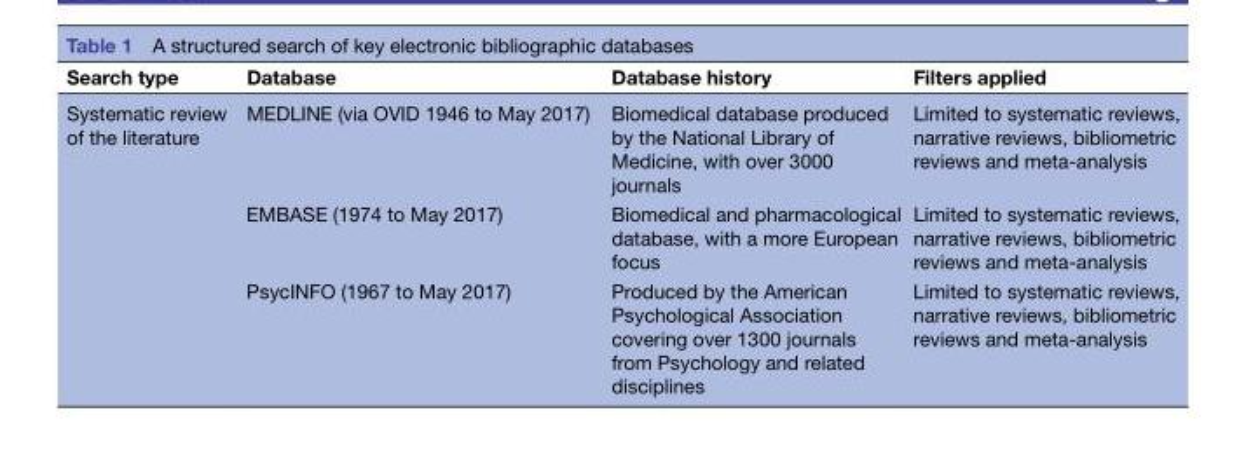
<table><thead><tr><td>Search type</td><td>Database</td><td>Database history</td><td>Filters applied</td></tr></thead><tbody><tr><td rowspan="3">Systematic review of the literature</td><td>MEDLINE (via OVID 1946 to May 2017)</td><td>Biomedical database produced by the National Library of Medicine, with over 3000 journals</td><td>Limited to systematic reviews, narrative reviews, bibliometric reviews and meta-analysis</td></tr><tr><td>EMBASE (1974 to May 2017)</td><td>Biomedical and pharmacological database, with a more European focus</td><td>Limited to systematic reviews, narrative reviews, bibliometric reviews and meta-analysis</td></tr><tr><td>PsycINFO (1967 to May 2017)</td><td>Produced by the American Psychological Association covering over 1300 journals from Psychology and related disciplines</td><td>Limited to systematic reviews, narrative reviews, bibliometric reviews and meta-analysis</td></tr></tbody></table>